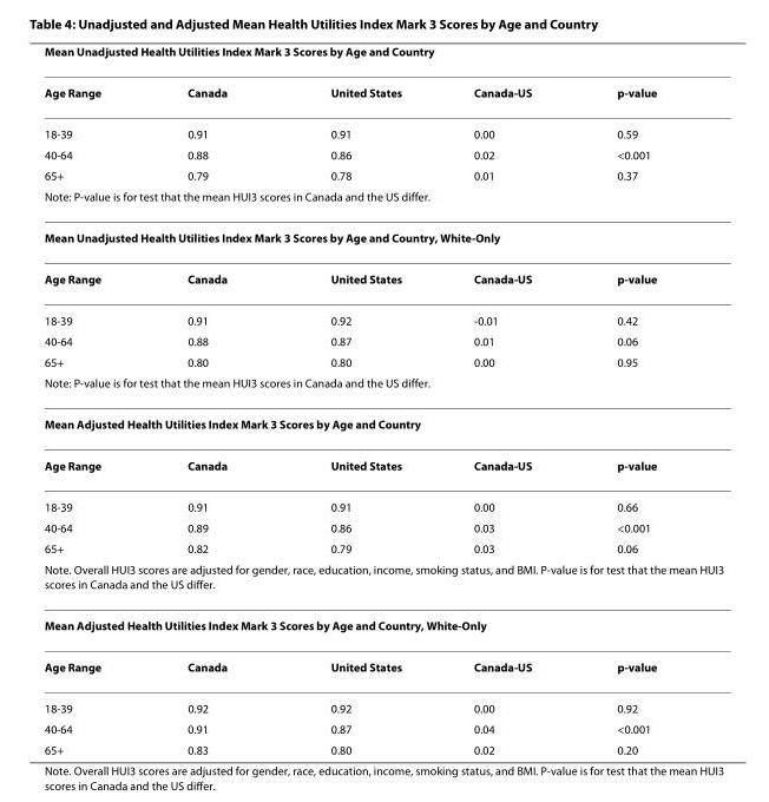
<table><thead><tr><td colspan="5">Mean Unadjusted Health Utilities Index Mark 3 Scores by Age and Country</td></tr><tr><td>Age Range</td><td>Canada</td><td>United States</td><td>Canada-US</td><td>p-value</td></tr></thead><tbody><tr><td>18-39</td><td>0.91</td><td>0.91</td><td>0.00</td><td>0.59</td></tr><tr><td>40-64</td><td>0.88</td><td>0.86</td><td>0.02</td><td>&lt;0.001</td></tr><tr><td>65+</td><td>0.79</td><td>0.78</td><td>0.01</td><td>0.37</td></tr><tr><td colspan="5">Note: P-value is for test that the mean HUI3 scores in Canada and the US differ.</td></tr><tr><td colspan="5">Mean Unadjusted Health Utilities Index Mark 3 Scores by Age and Country, White-Only</td></tr><tr><td>Age Range</td><td>Canada</td><td>United States</td><td>Canada-US</td><td>p-value</td></tr><tr><td>18-39</td><td>0.91</td><td>0.92</td><td>-0.01</td><td>0.42</td></tr><tr><td>40-64</td><td>0.88</td><td>0.87</td><td>0.01</td><td>0.06</td></tr><tr><td>65+</td><td>0.80</td><td>0.80</td><td>0.00</td><td>0.95</td></tr><tr><td colspan="5">Note: P-value is for test that the mean HUI3 scores in Canada and the US differ.</td></tr><tr><td colspan="5">Mean Adjusted Health Utilities Index Mark 3 Scores by Age and Country</td></tr><tr><td>Age Range</td><td>Canada</td><td>United States</td><td>Canada-US</td><td>p-value</td></tr><tr><td>18-39</td><td>0.91</td><td>0.91</td><td>0.00</td><td>0.66</td></tr><tr><td>40-64</td><td>0.89</td><td>0.86</td><td>0.03</td><td>&lt;0.001</td></tr><tr><td>65+</td><td>0.82</td><td>0.79</td><td>0.03</td><td>0.06</td></tr><tr><td colspan="5">Note. Overall HUI3 scores are adjusted for gender, race, education, income, smoking status, and BMI. P-value is for test that the mean HUI3 scores in Canada and the US differ.</td></tr><tr><td colspan="5">Mean Adjusted Health Utilities Index Mark 3 Scores by Age and Country, White-Only</td></tr><tr><td>Age Range</td><td>Canada</td><td>United States</td><td>Canada-US</td><td>p-value</td></tr><tr><td>18-39</td><td>0.92</td><td>0.92</td><td>0.00</td><td>0.92</td></tr><tr><td>40-64</td><td>0.91</td><td>0.87</td><td>0.04</td><td>&lt;0.001</td></tr><tr><td>65+</td><td>0.83</td><td>0.80</td><td>0.02</td><td>0.20</td></tr></tbody></table>